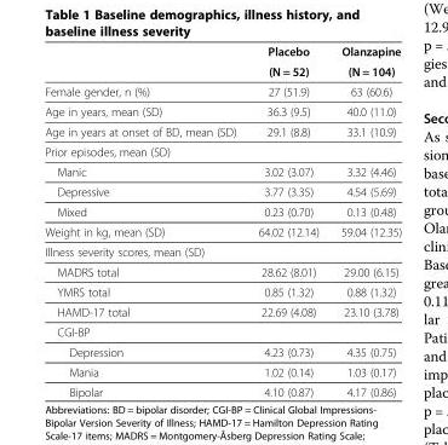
<table><thead><tr><td rowspan="2"></td><td rowspan="2">Placebo (N = 52)</td><td rowspan="2">Olanzapine (N = 104)</td></tr><tr></tr></thead><tbody><tr><td>Female gender, n (%)</td><td>27 (51.9)</td><td>63 (60.6)</td></tr><tr><td>Age in years, mean (SD)</td><td>36.3 (9.5)</td><td>40.0 (11.0)</td></tr><tr><td>Age in years at onset of BD, mean (SD)</td><td>29.1 (8.8)</td><td>33.1 (10.9)</td></tr><tr><td colspan="3">Prior episodes, mean (SD)</td></tr><tr><td>Manic</td><td>3.02 (3.07)</td><td>3.32 (4.46)</td></tr><tr><td>Depressive</td><td>3.77 (3.35)</td><td>4.54 (5.69)</td></tr><tr><td>Mixed</td><td>0.23 (0.70)</td><td>0.13 (0.48)</td></tr><tr><td>Weight in kg, mean (SD)</td><td>64.02 (12.14)</td><td>59.04 (12.35)</td></tr><tr><td colspan="3">Illness severity scores, mean (SD)</td></tr><tr><td>MADRS total</td><td>28.62 (8.01)</td><td>29.00 (6.15)</td></tr><tr><td>YMRS total</td><td>0.85 (1.32)</td><td>0.88 (1.32)</td></tr><tr><td>HAMD-17 total</td><td>22.69 (4.08)</td><td>23.10 (3.78)</td></tr><tr><td colspan="3">CGI-BP</td></tr><tr><td>Depression</td><td>4.23 (0.73)</td><td>4.35 (0.75)</td></tr><tr><td>Mania</td><td>1.02 (0.14)</td><td>1.03 (0.17)</td></tr><tr><td>Bipolar</td><td>4.10 (0.87)</td><td>4.17 (0.86)</td></tr></tbody></table>